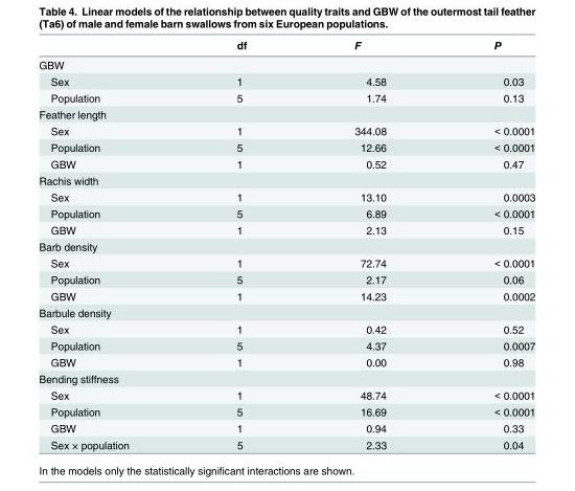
<table><thead><tr><td></td><td>df</td><td>F</td><td>P</td></tr></thead><tbody><tr><td colspan="4">GBW</td></tr><tr><td>Sex</td><td>1</td><td>4.58</td><td>0.03</td></tr><tr><td>Population</td><td>5</td><td>1.74</td><td>0.13</td></tr><tr><td colspan="4">Feather length</td></tr><tr><td>Sex</td><td>1</td><td>344.08</td><td>&lt; 0.0001</td></tr><tr><td>Population</td><td>5</td><td>12.66</td><td>&lt; 0.0001</td></tr><tr><td>GBW</td><td>1</td><td>0.52</td><td>0.47</td></tr><tr><td colspan="4">Rachis width</td></tr><tr><td>Sex</td><td>1</td><td>13.10</td><td>0.0003</td></tr><tr><td>Population</td><td>5</td><td>6.89</td><td>&lt; 0.0001</td></tr><tr><td>GBW</td><td>1</td><td>2.13</td><td>0.15</td></tr><tr><td colspan="4">Barb density</td></tr><tr><td>Sex</td><td>1</td><td>72.74</td><td>&lt; 0.0001</td></tr><tr><td>Population</td><td>5</td><td>2.17</td><td>0.06</td></tr><tr><td>GBW</td><td>1</td><td>14.23</td><td>0.0002</td></tr><tr><td colspan="4">Barbule density</td></tr><tr><td>Sex</td><td>1</td><td>0.42</td><td>0.52</td></tr><tr><td>Population</td><td>5</td><td>4.37</td><td>0.0007</td></tr><tr><td>GBW</td><td>1</td><td>0.00</td><td>0.98</td></tr><tr><td colspan="4">Bending stiffness</td></tr><tr><td>Sex</td><td>1</td><td>48.74</td><td>&lt; 0.0001</td></tr><tr><td>Population</td><td>5</td><td>16.69</td><td>&lt; 0.0001</td></tr><tr><td>GBW</td><td>1</td><td>0.94</td><td>0.33</td></tr><tr><td>Sex × population</td><td>5</td><td>2.33</td><td>0.04</td></tr></tbody></table>